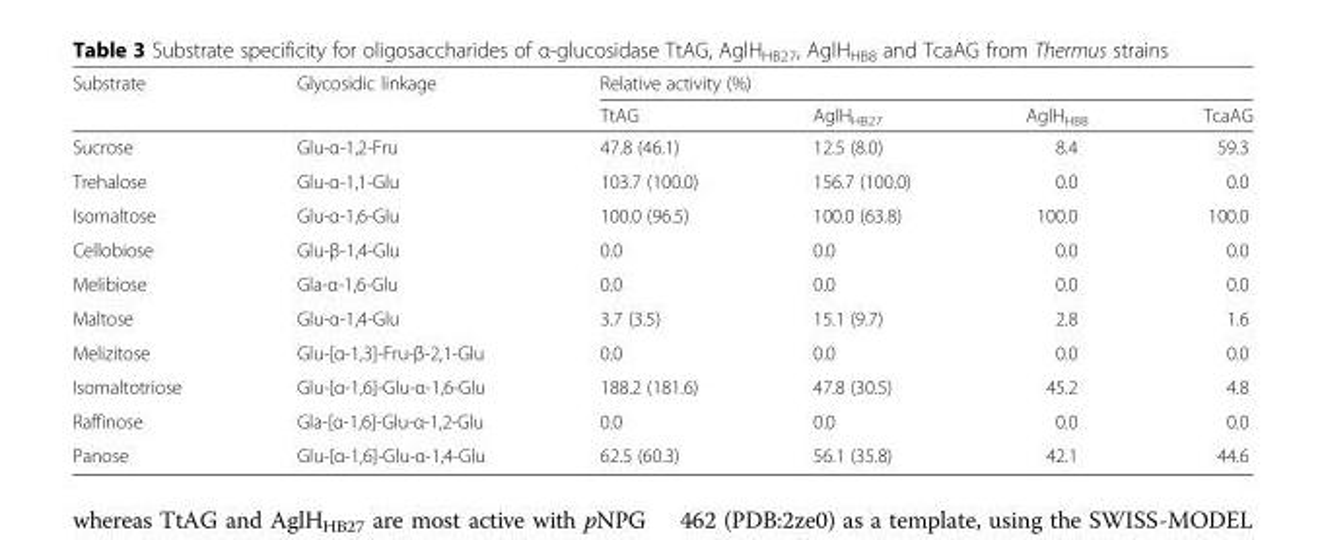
<table><thead><tr><td rowspan="2">Substrate</td><td rowspan="2">Glycosidic linkage</td><td colspan="4">Relative activity (%)</td></tr><tr><td>TtAG</td><td>AglH<sub>HB27</sub></td><td>AglH<sub>HB8</sub></td><td>TcaAG</td></tr></thead><tbody><tr><td>Sucrose</td><td>Glu-α-1,2-Fru</td><td>47.8 (46.1)</td><td>12.5 (8.0)</td><td>8.4</td><td>59.3</td></tr><tr><td>Trehalose</td><td>Glu-α-1,1-Glu</td><td>103.7 (100.0)</td><td>156.7 (100.0)</td><td>0.0</td><td>0.0</td></tr><tr><td>Isomaltose</td><td>Glu-α-1,6-Glu</td><td>100.0 (96.5)</td><td>100.0 (63.8)</td><td>100.0</td><td>100.0</td></tr><tr><td>Cellobiose</td><td>Glu-β-1,4-Glu</td><td>0.0</td><td>0.0</td><td>0.0</td><td>0.0</td></tr><tr><td>Melibiose</td><td>Gla-α-1,6-Glu</td><td>0.0</td><td>0.0</td><td>0.0</td><td>0.0</td></tr><tr><td>Maltose</td><td>Glu-α-1,4-Glu</td><td>3.7 (3.5)</td><td>15.1 (9.7)</td><td>2.8</td><td>1.6</td></tr><tr><td>Melizitose</td><td>Glu-[α-1,3]-Fru-β-2,1-Glu</td><td>0.0</td><td>0.0</td><td>0.0</td><td>0.0</td></tr><tr><td>Isomaltotriose</td><td>Glu-[α-1,6]-Glu-α-1,6-Glu</td><td>188.2 (181.6)</td><td>47.8 (30.5)</td><td>45.2</td><td>4.8</td></tr><tr><td>Raffinose</td><td>Gla-[α-1,6]-Glu-α-1,2-Glu</td><td>0.0</td><td>0.0</td><td>0.0</td><td>0.0</td></tr><tr><td>Panose</td><td>Glu-[α-1,6]-Glu-α-1,4-Glu</td><td>62.5 (60.3)</td><td>56.1 (35.8)</td><td>42.1</td><td>44.6</td></tr></tbody></table>